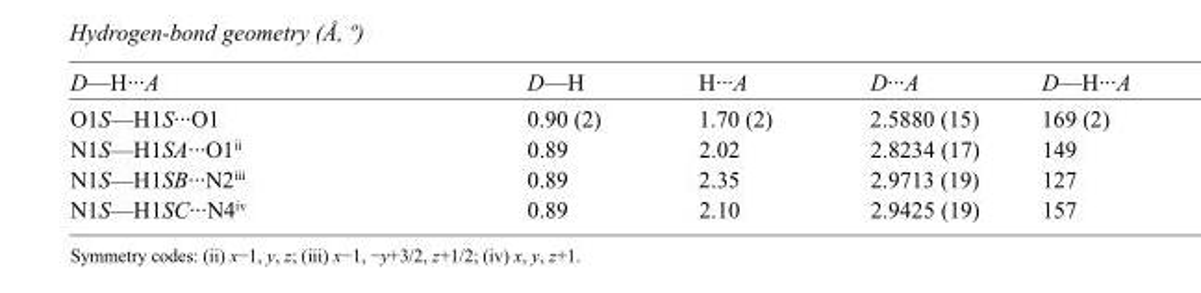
<table><tbody><tr><td>D—H···A</td><td>D—H</td><td>H···A</td><td>D···A</td><td>D—H···A</td></tr><tr><td>O1S—H1S···O1</td><td>0.90 (2)</td><td>1.70 (2)</td><td>2.5880 (15)</td><td>169 (2)</td></tr><tr><td>N1S—H1SA···O1<sup>ii</sup></td><td>0.89</td><td>2.02</td><td>2.8234 (17)</td><td>149</td></tr><tr><td>N1S—H1SB···N2<sup>iii</sup></td><td>0.89</td><td>2.35</td><td>2.9713 (19)</td><td>127</td></tr><tr><td>N1S—H1SC···N4<sup>iv</sup></td><td>0.89</td><td>2.10</td><td>2.9425 (19)</td><td>157</td></tr></tbody></table>